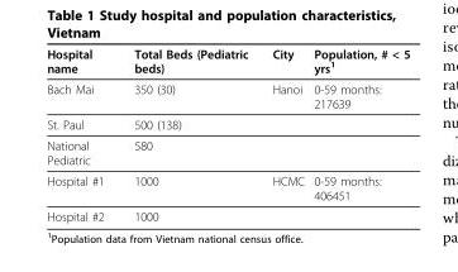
<table><thead><tr><td>Hospital name</td><td>Total Beds (Pediatric beds)</td><td>City</td><td>Population, # &lt; 5 yrs<sup>1</sup></td></tr></thead><tbody><tr><td>Bach Mai</td><td>350 (30)</td><td>Hanoi</td><td>0-59 months: 217639</td></tr><tr><td>St. Paul</td><td>500 (138)</td><td></td><td></td></tr><tr><td>National Pediatric</td><td>580</td><td></td><td></td></tr><tr><td>Hospital #1</td><td>1000</td><td>HCMC</td><td>0-59 months: 406451</td></tr><tr><td>Hospital #2</td><td>1000</td><td></td><td></td></tr></tbody></table>